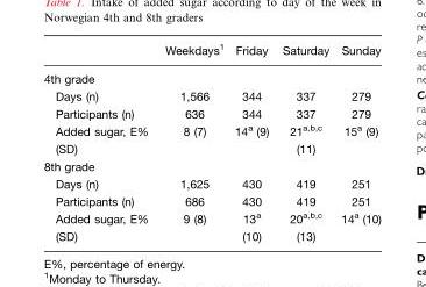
<table><thead><tr><td></td><td>Weekdays<sup>1</sup></td><td>Friday</td><td>Saturday</td><td>Sunday</td></tr></thead><tbody><tr><td colspan="5">4th grade</td></tr><tr><td>Days (n)</td><td>1,566</td><td>344</td><td>337</td><td>279</td></tr><tr><td>Participants (n)</td><td>636</td><td>344</td><td>337</td><td>279</td></tr><tr><td>Added sugar, E% (SD)</td><td>8 (7)</td><td>14<sup>a</sup> (9)</td><td>21a,b,c (11)</td><td>15<sup>a</sup> (9)</td></tr><tr><td colspan="5">8th grade</td></tr><tr><td>Days (n)</td><td>1,625</td><td>430</td><td>419</td><td>251</td></tr><tr><td>Participants (n)</td><td>686</td><td>430</td><td>419</td><td>251</td></tr><tr><td>Added sugar, E% (SD)</td><td>9 (8)</td><td>13<sup>a</sup> (10)</td><td>20a,b,c (13)</td><td>14<sup>a</sup> (10)</td></tr></tbody></table>